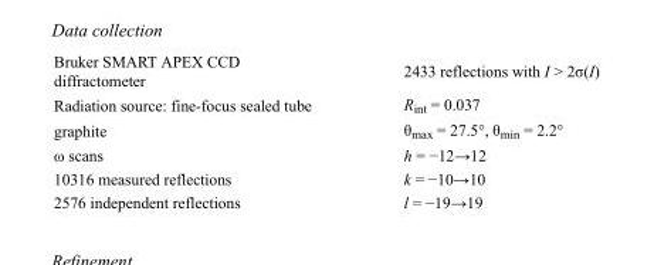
<table><tbody><tr><td>Bruker SMART APEX CCD diffractometer</td><td>2433 reflections with I &gt; 2σ(I)</td></tr><tr><td>Radiation source: fine-focus sealed tube</td><td>R<sub>int</sub> = 0.037</td></tr><tr><td>graphite</td><td>θ<sub>max</sub> = 27.5°, θ<sub>min</sub> = 2.2°</td></tr><tr><td>ω scans</td><td>h = −12→12</td></tr><tr><td>10316 measured reflections</td><td>k = −10→10</td></tr><tr><td>2576 independent reflections</td><td>l = −19→19</td></tr></tbody></table>